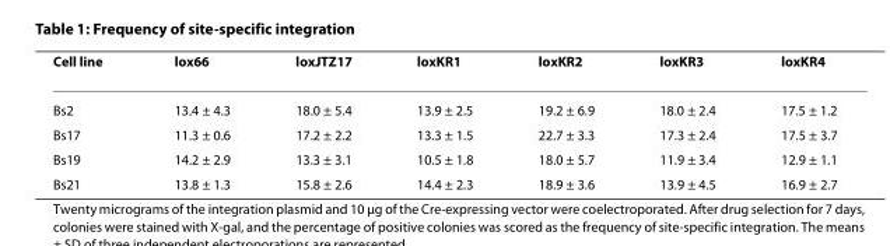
<table><thead><tr><td>Cell line</td><td>lox66</td><td>loxJTZ17</td><td>loxKR1</td><td>loxKR2</td><td>loxKR3</td><td>loxKR4</td></tr></thead><tbody><tr><td>Bs2</td><td>13.4 ± 4.3</td><td>18.0 ± 5.4</td><td>13.9 ± 2.5</td><td>19.2 ± 6.9</td><td>18.0 ± 2.4</td><td>17.5 ± 1.2</td></tr><tr><td>Bs17</td><td>11.3 ± 0.6</td><td>17.2 ± 2.2</td><td>13.3 ± 1.5</td><td>22.7 ± 3.3</td><td>17.3 ± 2.4</td><td>17.5 ± 3.7</td></tr><tr><td>Bs19</td><td>14.2 ± 2.9</td><td>13.3 ± 3.1</td><td>10.5 ± 1.8</td><td>18.0 ± 5.7</td><td>11.9 ± 3.4</td><td>12.9 ± 1.1</td></tr><tr><td>Bs21</td><td>13.8 ± 1.3</td><td>15.8 ± 2.6</td><td>14.4 ± 2.3</td><td>18.9 ± 3.6</td><td>13.9 ± 4.5</td><td>16.9 ± 2.7</td></tr></tbody></table>